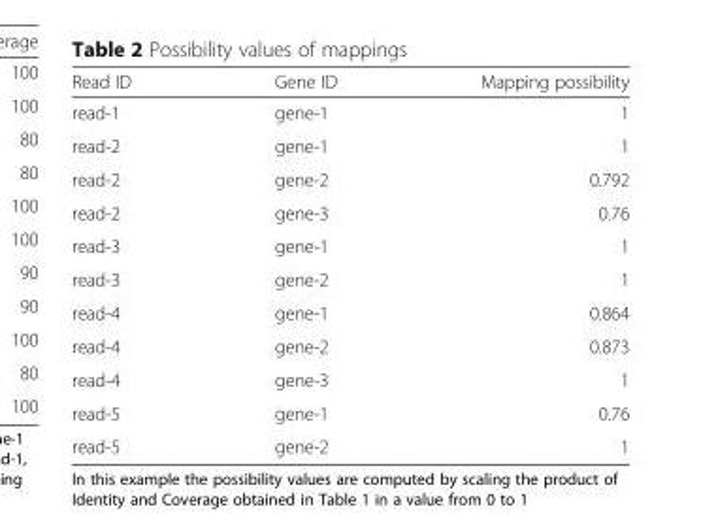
<table><thead><tr><td>Read ID</td><td>Gene ID</td><td>Mapping possibility</td></tr></thead><tbody><tr><td>read-1</td><td>gene-1</td><td>1</td></tr><tr><td>read-2</td><td>gene-1</td><td>1</td></tr><tr><td>read-2</td><td>gene-2</td><td>0.792</td></tr><tr><td>read-2</td><td>gene-3</td><td>0.76</td></tr><tr><td>read-3</td><td>gene-1</td><td>1</td></tr><tr><td>read-3</td><td>gene-2</td><td>1</td></tr><tr><td>read-4</td><td>gene-1</td><td>0.864</td></tr><tr><td>read-4</td><td>gene-2</td><td>0.873</td></tr><tr><td>read-4</td><td>gene-3</td><td>1</td></tr><tr><td>read-5</td><td>gene-1</td><td>0.76</td></tr><tr><td>read-5</td><td>gene-2</td><td>1</td></tr></tbody></table>